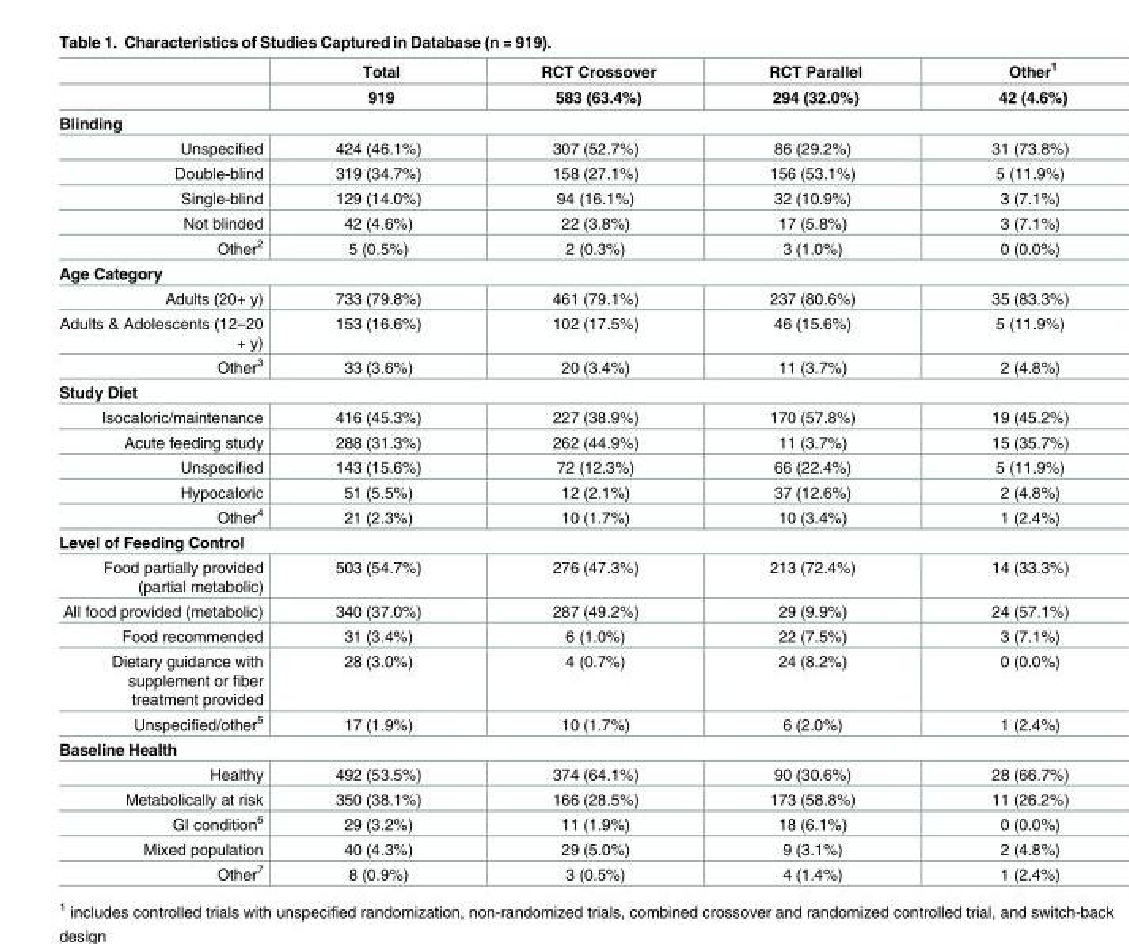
<table><thead><tr><td rowspan="2"></td><td rowspan="2">Total 919</td><td rowspan="2">RCT Crossover 583 (63.4%)</td><td rowspan="2">RCT Parallel 294 (32.0%)</td><td rowspan="2">Other<sup>1</sup> 42 (4.6%)</td></tr><tr></tr></thead><tbody><tr><td colspan="5">Blinding</td></tr><tr><td>Unspecified</td><td>424 (46.1%)</td><td>307 (52.7%)</td><td>86 (29.2%)</td><td>31 (73.8%)</td></tr><tr><td>Double-blind</td><td>319 (34.7%)</td><td>158 (27.1%)</td><td>156 (53.1%)</td><td>5 (11.9%)</td></tr><tr><td>Single-blind</td><td>129 (14.0%)</td><td>94 (16.1%)</td><td>32 (10.9%)</td><td>3 (7.1%)</td></tr><tr><td>Not blinded</td><td>42 (4.6%)</td><td>22 (3.8%)</td><td>17 (5.8%)</td><td>3 (7.1%)</td></tr><tr><td>Other<sup>2</sup></td><td>5 (0.5%)</td><td>2 (0.3%)</td><td>3 (1.0%)</td><td>0 (0.0%)</td></tr><tr><td colspan="5">Age Category</td></tr><tr><td>Adults (20+ y)</td><td>733 (79.8%)</td><td>461 (79.1%)</td><td>237 (80.6%)</td><td>35 (83.3%)</td></tr><tr><td>Adults &amp; Adolescents (12–20 + y)</td><td>153 (16.6%)</td><td>102 (17.5%)</td><td>46 (15.6%)</td><td>5 (11.9%)</td></tr><tr><td>Other<sup>3</sup></td><td>33 (3.6%)</td><td>20 (3.4%)</td><td>11 (3.7%)</td><td>2 (4.8%)</td></tr><tr><td colspan="5">Study Diet</td></tr><tr><td>Isocaloric/maintenance</td><td>416 (45.3%)</td><td>227 (38.9%)</td><td>170 (57.8%)</td><td>19 (45.2%)</td></tr><tr><td>Acute feeding study</td><td>288 (31.3%)</td><td>262 (44.9%)</td><td>11 (3.7%)</td><td>15 (35.7%)</td></tr><tr><td>Unspecified</td><td>143 (15.6%)</td><td>72 (12.3%)</td><td>66 (22.4%)</td><td>5 (11.9%)</td></tr><tr><td>Hypocaloric</td><td>51 (5.5%)</td><td>12 (2.1%)</td><td>37 (12.6%)</td><td>2 (4.8%)</td></tr><tr><td>Other<sup>4</sup></td><td>21 (2.3%)</td><td>10 (1.7%)</td><td>10 (3.4%)</td><td>1 (2.4%)</td></tr><tr><td colspan="5">Level of Feeding Control</td></tr><tr><td>Food partially provided (partial metabolic)</td><td>503 (54.7%)</td><td>276 (47.3%)</td><td>213 (72.4%)</td><td>14 (33.3%)</td></tr><tr><td>All food provided (metabolic)</td><td>340 (37.0%)</td><td>287 (49.2%)</td><td>29 (9.9%)</td><td>24 (57.1%)</td></tr><tr><td>Food recommended</td><td>31 (3.4%)</td><td>6 (1.0%)</td><td>22 (7.5%)</td><td>3 (7.1%)</td></tr><tr><td>Dietary guidance with supplement or fiber treatment provided</td><td>28 (3.0%)</td><td>4 (0.7%)</td><td>24 (8.2%)</td><td>0 (0.0%)</td></tr><tr><td>Unspecified/other<sup>5</sup></td><td>17 (1.9%)</td><td>10 (1.7%)</td><td>6 (2.0%)</td><td>1 (2.4%)</td></tr><tr><td colspan="5">Baseline Health</td></tr><tr><td>Healthy</td><td>492 (53.5%)</td><td>374 (64.1%)</td><td>90 (30.6%)</td><td>28 (66.7%)</td></tr><tr><td>Metabolically at risk</td><td>350 (38.1%)</td><td>166 (28.5%)</td><td>173 (58.8%)</td><td>11 (26.2%)</td></tr><tr><td>GI condition<sup>6</sup></td><td>29 (3.2%)</td><td>11 (1.9%)</td><td>18 (6.1%)</td><td>0 (0.0%)</td></tr><tr><td>Mixed population</td><td>40 (4.3%)</td><td>29 (5.0%)</td><td>9 (3.1%)</td><td>2 (4.8%)</td></tr><tr><td>Other<sup>7</sup></td><td>8 (0.9%)</td><td>3 (0.5%)</td><td>4 (1.4%)</td><td>1 (2.4%)</td></tr></tbody></table>